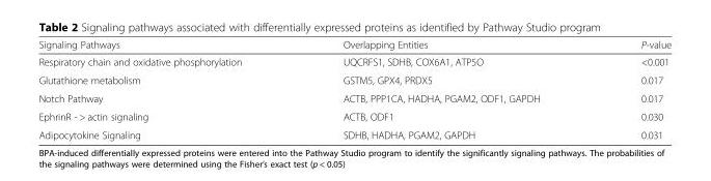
<table><thead><tr><td>Signaling Pathways</td><td>Overlapping Entities</td><td>P-value</td></tr></thead><tbody><tr><td>Respiratory chain and oxidative phosphorylation</td><td>UQCRFS1, SDHB, COX6A1, ATP5O</td><td>&lt;0.001</td></tr><tr><td>Glutathione metabolism</td><td>GSTM5, GPX4, PRDX5</td><td>0.017</td></tr><tr><td>Notch Pathway</td><td>ACTB, PPP1CA, HADHA, PGAM2, ODF1, GAPDH</td><td>0.017</td></tr><tr><td>EphrinR - &gt; actin signaling</td><td>ACTB, ODF1</td><td>0.030</td></tr><tr><td>Adipocytokine Signaling</td><td>SDHB, HADHA, PGAM2, GAPDH</td><td>0.031</td></tr></tbody></table>